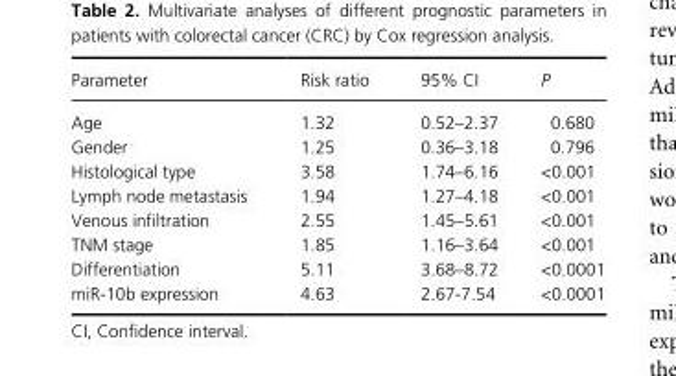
<table><thead><tr><td>Parameter</td><td>Risk ratio</td><td>95% CI</td><td>P</td></tr></thead><tbody><tr><td>Age</td><td>1.32</td><td>0.52–2.37</td><td>0.680</td></tr><tr><td>Gender</td><td>1.25</td><td>0.36–3.18</td><td>0.796</td></tr><tr><td>Histological type</td><td>3.58</td><td>1.74–6.16</td><td>&lt;0.001</td></tr><tr><td>Lymph node metastasis</td><td>1.94</td><td>1.27–4.18</td><td>&lt;0.001</td></tr><tr><td>Venous infiltration</td><td>2.55</td><td>1.45–5.61</td><td>&lt;0.001</td></tr><tr><td>TNM stage</td><td>1.85</td><td>1.16–3.64</td><td>&lt;0.001</td></tr><tr><td>Differentiation</td><td>5.11</td><td>3.68–8.72</td><td>&lt;0.0001</td></tr><tr><td>miR- 10b expression</td><td>4.63</td><td>2.67- 7.54</td><td>&lt;0.0001</td></tr></tbody></table>